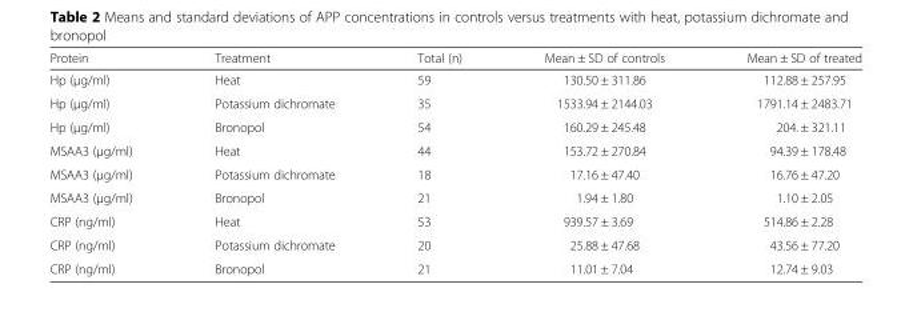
<table><thead><tr><td>Protein</td><td>Treatment</td><td>Total (n)</td><td>Mean ± SD of controls</td><td>Mean ± SD of treated</td></tr></thead><tbody><tr><td>Hp (μg/ml)</td><td>Heat</td><td>59</td><td>130.50 ± 311.86</td><td>112.88 ± 257.95</td></tr><tr><td>Hp (μg/ml)</td><td>Potassium dichromate</td><td>35</td><td>1533.94 ± 2144.03</td><td>1791.14 ± 2483.71</td></tr><tr><td>Hp (μg/ml)</td><td>Bronopol</td><td>54</td><td>160.29 ± 245.48</td><td>204. ± 321.11</td></tr><tr><td>MSAA3 (μg/ml)</td><td>Heat</td><td>44</td><td>153.72 ± 270.84</td><td>94.39 ± 178.48</td></tr><tr><td>MSAA3 (μg/ml)</td><td>Potassium dichromate</td><td>18</td><td>17.16 ± 47.40</td><td>16.76 ± 47.20</td></tr><tr><td>MSAA3 (μg/ml)</td><td>Bronopol</td><td>21</td><td>1.94 ± 1.80</td><td>1.10 ± 2.05</td></tr><tr><td>CRP (ng/ml)</td><td>Heat</td><td>53</td><td>939.57 ± 3.69</td><td>514.86 ± 2.28</td></tr><tr><td>CRP (ng/ml)</td><td>Potassium dichromate</td><td>20</td><td>25.88 ± 47.68</td><td>43.56 ± 77.20</td></tr><tr><td>CRP (ng/ml)</td><td>Bronopol</td><td>21</td><td>11.01 ± 7.04</td><td>12.74 ± 9.03</td></tr></tbody></table>